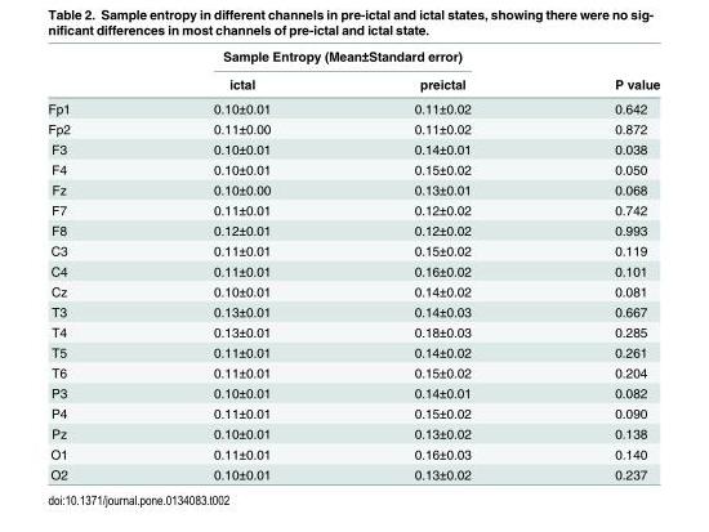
<table><thead><tr><td rowspan="2"></td><td colspan="2">Sample Entropy (Mean±Standard error)</td><td rowspan="2">P value</td></tr><tr><td>ictal</td><td>preictal</td></tr></thead><tbody><tr><td>Fp1</td><td>0.10±0.01</td><td>0.11±0.02</td><td>0.642</td></tr><tr><td>Fp2</td><td>0.11±0.00</td><td>0.11±0.02</td><td>0.872</td></tr><tr><td>F3</td><td>0.10±0.01</td><td>0.14±0.01</td><td>0.038</td></tr><tr><td>F4</td><td>0.10±0.01</td><td>0.15±0.02</td><td>0.050</td></tr><tr><td>Fz</td><td>0.10±0.00</td><td>0.13±0.01</td><td>0.068</td></tr><tr><td>F7</td><td>0.11±0.01</td><td>0.12±0.02</td><td>0.742</td></tr><tr><td>F8</td><td>0.12±0.01</td><td>0.12±0.02</td><td>0.993</td></tr><tr><td>C3</td><td>0.11±0.01</td><td>0.15±0.02</td><td>0.119</td></tr><tr><td>C4</td><td>0.11±0.01</td><td>0.16±0.02</td><td>0.101</td></tr><tr><td>Cz</td><td>0.10±0.01</td><td>0.14±0.02</td><td>0.081</td></tr><tr><td>T3</td><td>0.13±0.01</td><td>0.14±0.03</td><td>0.667</td></tr><tr><td>T4</td><td>0.13±0.01</td><td>0.18±0.03</td><td>0.285</td></tr><tr><td>T5</td><td>0.11±0.01</td><td>0.14±0.02</td><td>0.261</td></tr><tr><td>T6</td><td>0.11±0.01</td><td>0.15±0.02</td><td>0.204</td></tr><tr><td>P3</td><td>0.10±0.01</td><td>0.14±0.01</td><td>0.082</td></tr><tr><td>P4</td><td>0.11±0.01</td><td>0.15±0.02</td><td>0.090</td></tr><tr><td>Pz</td><td>0.10±0.01</td><td>0.13±0.02</td><td>0.138</td></tr><tr><td>O1</td><td>0.11±0.01</td><td>0.16±0.03</td><td>0.140</td></tr><tr><td>O2</td><td>0.10±0.01</td><td>0.13±0.02</td><td>0.237</td></tr></tbody></table>